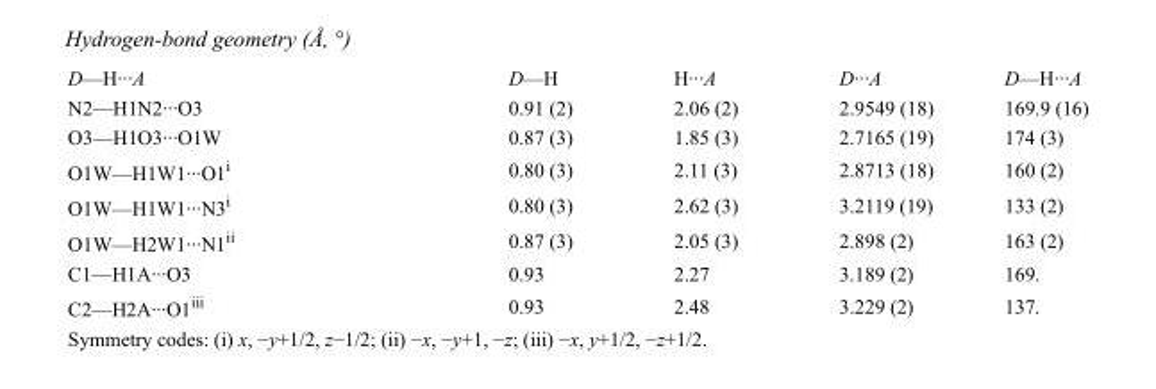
<table><tbody><tr><td>D—H···A</td><td>D—H</td><td>H···A</td><td>D···A</td><td>D—H···A</td></tr><tr><td>N2—H1N2···O3</td><td>0.91 (2)</td><td>2.06 (2)</td><td>2.9549 (18)</td><td>169.9 (16)</td></tr><tr><td>O3—H1O3···O1W</td><td>0.87 (3)</td><td>1.85 (3)</td><td>2.7165 (19)</td><td>174 (3)</td></tr><tr><td>O1W—H1W1···O1<sup>i</sup></td><td>0.80 (3)</td><td>2.11 (3)</td><td>2.8713 (18)</td><td>160 (2)</td></tr><tr><td>O1W—H1W1···N3<sup>i</sup></td><td>0.80 (3)</td><td>2.62 (3)</td><td>3.2119 (19)</td><td>133 (2)</td></tr><tr><td>O1W—H2W1···N1<sup>ii</sup></td><td>0.87 (3)</td><td>2.05 (3)</td><td>2.898 (2)</td><td>163 (2)</td></tr><tr><td>C1—H1A···O3</td><td>0.93</td><td>2.27</td><td>3.189 (2)</td><td>169.</td></tr><tr><td>C2—H2A···O1<sup>iii</sup></td><td>0.93</td><td>2.48</td><td>3.229 (2)</td><td>137.</td></tr></tbody></table>